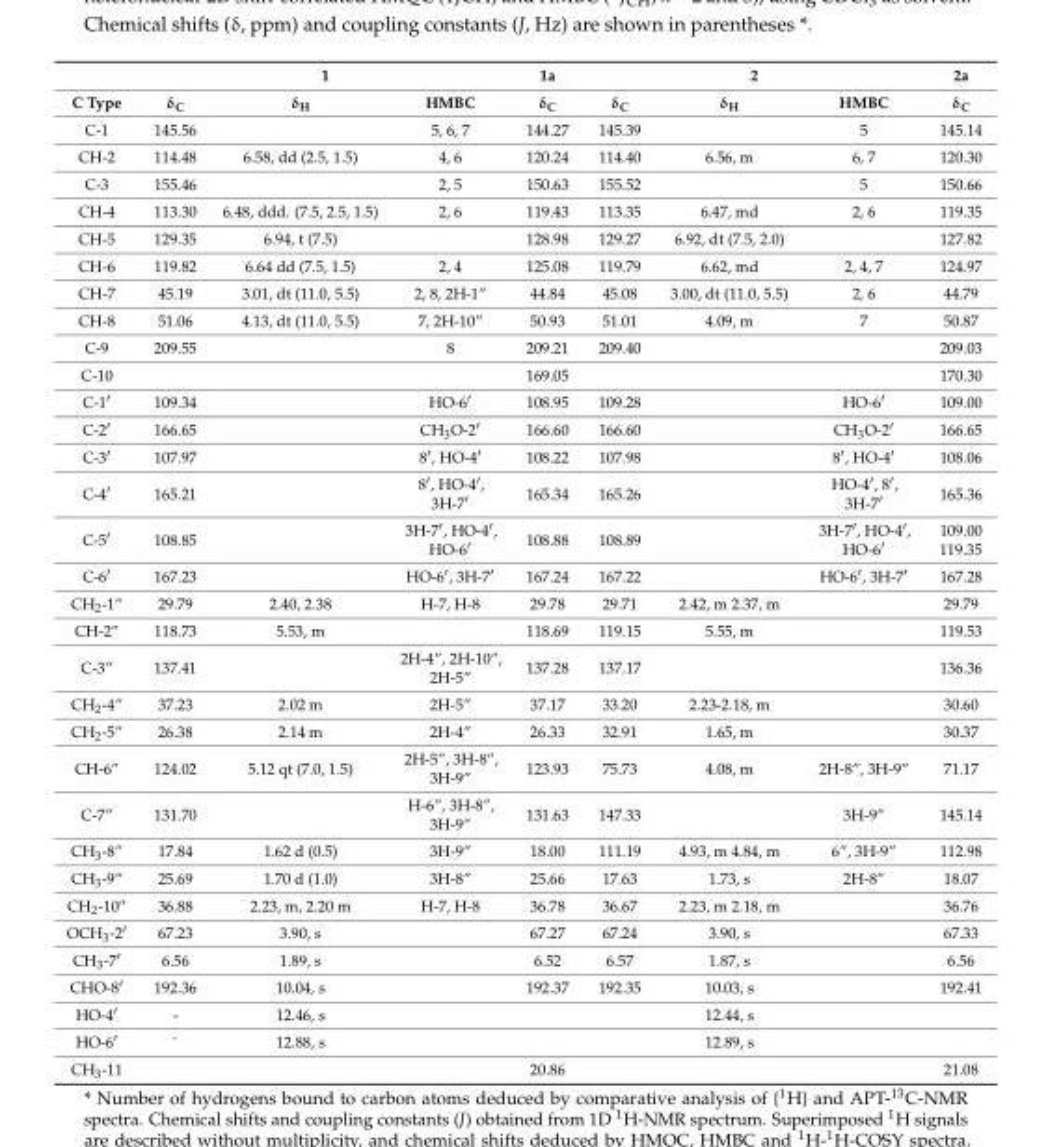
<table><thead><tr><td rowspan="2">C Type</td><td colspan="3">1</td><td rowspan="2">1a δC</td><td colspan="3">2</td><td rowspan="2">2a δC</td></tr><tr><td>δC</td><td>δH</td><td>HMBC</td><td>δC</td><td>δH</td><td>HMBC</td></tr></thead><tbody><tr><td>C-1</td><td>145.56</td><td></td><td>5, 6, 7</td><td>144.27</td><td>145.39</td><td></td><td>5</td><td>145.14</td></tr><tr><td>CH-2</td><td>114.48</td><td>6.58, dd (2.5, 1.5)</td><td>4, 6</td><td>120.24</td><td>114.40</td><td>6.56, m</td><td>6, 7</td><td>120.30</td></tr><tr><td>C-3</td><td>155.46</td><td></td><td>2, 5</td><td>150.63</td><td>155.52</td><td></td><td>5</td><td>150.66</td></tr><tr><td>CH-4</td><td>113.30</td><td>6.48, ddd. (7.5, 2.5, 1.5)</td><td>2, 6</td><td>119.43</td><td>113.35</td><td>6.47, md</td><td>2, 6</td><td>119.35</td></tr><tr><td>CH-5</td><td>129.35</td><td>6.94, t (7.5)</td><td></td><td>128.98</td><td>129.27</td><td>6.92, dt (7.5, 2.0)</td><td></td><td>127.82</td></tr><tr><td>CH-6</td><td>119.82</td><td>6.64 dd (7.5, 1.5)</td><td>2, 4</td><td>125.08</td><td>119.79</td><td>6.62, md</td><td>2, 4, 7</td><td>124.97</td></tr><tr><td>CH-7</td><td>45.19</td><td>3.01, dt (11.0, 5.5)</td><td>2, 8, 2H-1”</td><td>44.84</td><td>45.08</td><td>3.00, dt (11.0, 5.5)</td><td>2, 6</td><td>44.79</td></tr><tr><td>CH-8</td><td>51.06</td><td>4.13, dt (11.0, 5.5)</td><td>7, 2H-10”</td><td>50.93</td><td>51.01</td><td>4.09, m</td><td>7</td><td>50.87</td></tr><tr><td>C-9</td><td>209.55</td><td></td><td>8</td><td>209.21</td><td>209.40</td><td></td><td></td><td>209.03</td></tr><tr><td>C-10</td><td></td><td></td><td></td><td>169.05</td><td></td><td></td><td></td><td>170.30</td></tr><tr><td>C-1′</td><td>109.34</td><td></td><td>HO-6′</td><td>108.95</td><td>109.28</td><td></td><td>HO-6′</td><td>109.00</td></tr><tr><td>C-2′</td><td>166.65</td><td></td><td>CH3O-2′</td><td>166.60</td><td>166.60</td><td></td><td>CH3O-2′</td><td>166.65</td></tr><tr><td>C-3′</td><td>107.97</td><td></td><td>8′, HO-4′</td><td>108.22</td><td>107.98</td><td></td><td>8′, HO-4′</td><td>108.06</td></tr><tr><td>C-4′</td><td>165.21</td><td></td><td>8′, HO-4′, 3H-7′</td><td>165.34</td><td>165.26</td><td></td><td>HO-4′, 8′, 3H-7′</td><td>165.36</td></tr><tr><td>C-5′</td><td>108.85</td><td></td><td>3H-7′, HO-4′, HO-6′</td><td>108.88</td><td>108.89</td><td></td><td>3H-7′, HO-4′, HO-6′</td><td>109.00 119.35</td></tr><tr><td>C-6′</td><td>167.23</td><td></td><td>HO-6′, 3H-7′</td><td>167.24</td><td>167.22</td><td></td><td>HO-6′, 3H-7′</td><td>167.28</td></tr><tr><td>CH2-1”</td><td>29.79</td><td>2.40, 2.38</td><td>H-7, H-8</td><td>29.78</td><td>29.71</td><td>2.42, m 2.37, m</td><td></td><td>29.79</td></tr><tr><td>CH-2”</td><td>118.73</td><td>5.53, m</td><td></td><td>118.69</td><td>119.15</td><td>5.55, m</td><td></td><td>119.53</td></tr><tr><td>C-3”</td><td>137.41</td><td></td><td>2H-4”, 2H-10”, 2H-5”</td><td>137.28</td><td>137.17</td><td></td><td></td><td>136.36</td></tr><tr><td>CH2-4”</td><td>37.23</td><td>2.02 m</td><td>2H-5”</td><td>37.17</td><td>33.20</td><td>2.23-2.18, m</td><td></td><td>30.60</td></tr><tr><td>CH2-5”</td><td>26.38</td><td>2.14 m</td><td>2H-4”</td><td>26.33</td><td>32.91</td><td>1.65, m</td><td></td><td>30.37</td></tr><tr><td>CH-6”</td><td>124.02</td><td>5.12 qt (7.0, 1.5)</td><td>2H-5”, 3H-8”, 3H-9”</td><td>123.93</td><td>75.73</td><td>4.08, m</td><td>2H-8”, 3H-9”</td><td>71.17</td></tr><tr><td>C-7”</td><td>131.70</td><td></td><td>H-6”, 3H-8”, 3H-9”</td><td>131.63</td><td>147.33</td><td></td><td>3H-9”</td><td>145.14</td></tr><tr><td>CH3-8”</td><td>17.84</td><td>1.62 d (0.5)</td><td>3H-9”</td><td>18.00</td><td>111.19</td><td>4.93, m 4.84, m</td><td>6”, 3H-9”</td><td>112.98</td></tr><tr><td>CH3-9”</td><td>25.69</td><td>1.70 d (1.0)</td><td>3H-8”</td><td>25.66</td><td>17.63</td><td>1.73, s</td><td>2H-8”</td><td>18.07</td></tr><tr><td>CH2-10”</td><td>36.88</td><td>2.23, m, 2.20 m</td><td>H-7, H-8</td><td>36.78</td><td>36.67</td><td>2.23, m 2.18, m</td><td></td><td>36.76</td></tr><tr><td>OCH3-2′</td><td>67.23</td><td>3.90, s</td><td></td><td>67.27</td><td>67.24</td><td>3.90, s</td><td></td><td>67.33</td></tr><tr><td>CH3-7′</td><td>6.56</td><td>1.89, s</td><td></td><td>6.52</td><td>6.57</td><td>1.87, s</td><td></td><td>6.56</td></tr><tr><td>CHO-8′</td><td>192.36</td><td>10.04, s</td><td></td><td>192.37</td><td>192.35</td><td>10.03, s</td><td></td><td>192.41</td></tr><tr><td>HO-4′</td><td>-</td><td>12.46, s</td><td></td><td></td><td></td><td>12.44, s</td><td></td><td></td></tr><tr><td>HO-6′</td><td>-</td><td>12.88, s</td><td></td><td></td><td></td><td>12.89, s</td><td></td><td></td></tr><tr><td>CH3-11</td><td></td><td></td><td></td><td>20.86</td><td></td><td></td><td></td><td>21.08</td></tr></tbody></table>